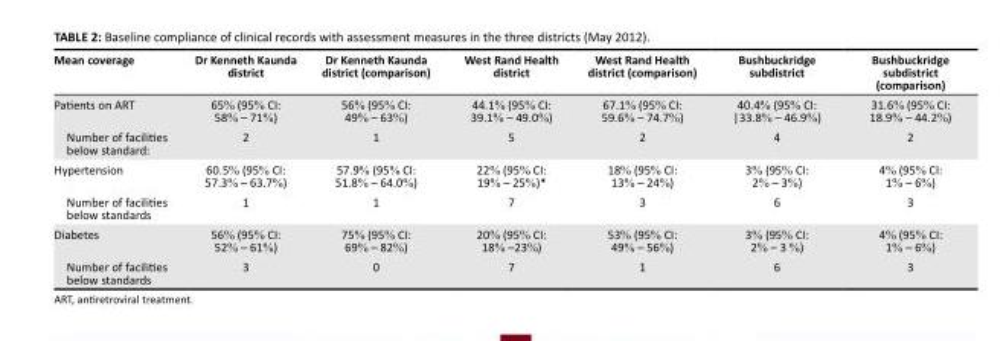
<table><thead><tr><td>Mean coverage</td><td>Dr Kenneth Kaunda district</td><td>Dr Kenneth Kaunda district (comparison)</td><td>West Rand Health district</td><td>West Rand Health district (comparison)</td><td>Bushbuckridge subdistrict</td><td>Bushbuckridge subdistrict (comparison)</td></tr></thead><tbody><tr><td>Patients on ART</td><td>65% (95% CI: 58% – 71%)</td><td>56% (95% CI: 49% – 63%)</td><td>44.1% (95% CI: 39.1% – 49.0%)</td><td>67.1% (95% CI: 59.6% – 74.7%)</td><td>40.4% (95% CI: |33.8% – 46.9%)</td><td>31.6% (95% CI: 18.9% – 44.2%)</td></tr><tr><td>Number of facilities below standard:</td><td>2</td><td>1</td><td>5</td><td>2</td><td>4</td><td>2</td></tr><tr><td>Hypertension</td><td>60.5% (95% CI: 57.3% – 63.7%)</td><td>57.9% (95% CI: 51.8% – 64.0%)</td><td>22% (95% CI: 19% – 25%)*</td><td>18% (95% CI: 13% – 24%)</td><td>3% (95% CI: 2% – 3%)</td><td>4% (95% CI: 1% – 6%)</td></tr><tr><td>Number of facilities below standards</td><td>1</td><td>1</td><td>7</td><td>3</td><td>6</td><td>3</td></tr><tr><td>Diabetes</td><td>56% (95% CI: 52% – 61%)</td><td>75% (95% CI: 69% – 82%)</td><td>20% (95% CI: 18% –23%)</td><td>53% (95% CI: 49% – 56%)</td><td>3% (95% CI: 2% – 3 %)</td><td>4% (95% CI: 1% – 6%)</td></tr><tr><td>Number of facilities below standards</td><td>3</td><td>0</td><td>7</td><td>1</td><td>6</td><td>3</td></tr></tbody></table>